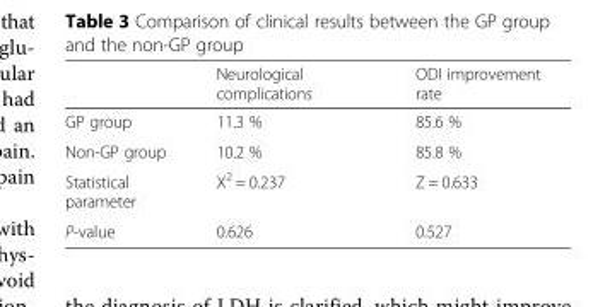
<table><thead><tr><td></td><td>Neurological complications</td><td>ODI improvement rate</td></tr></thead><tbody><tr><td>GP group</td><td>11.3 %</td><td>85.6 %</td></tr><tr><td>Non-GP group</td><td>10.2 %</td><td>85.8 %</td></tr><tr><td>Statistical parameter</td><td>X<sup>2</sup> = 0.237</td><td>Z = 0.633</td></tr><tr><td>P-value</td><td>0.626</td><td>0.527</td></tr></tbody></table>